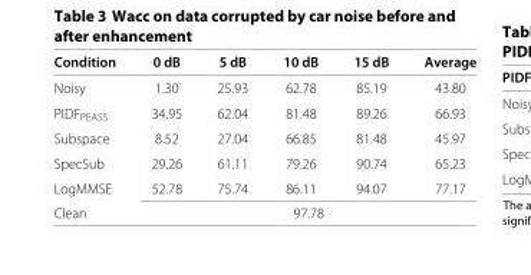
<table><thead><tr><td>Condition</td><td>0 dB</td><td>5 dB</td><td>10 dB</td><td>15 dB</td><td>Average</td></tr></thead><tbody><tr><td>Noisy</td><td>1.30</td><td>25.93</td><td>62.78</td><td>85.19</td><td>43.80</td></tr><tr><td>PIDF<sub>PEASS</sub></td><td>34.95</td><td>62.04</td><td>81.48</td><td>89.26</td><td>66.93</td></tr><tr><td>Subspace</td><td>8.52</td><td>27.04</td><td>66.85</td><td>81.48</td><td>45.97</td></tr><tr><td>SpecSub</td><td>29.26</td><td>61.11</td><td>79.26</td><td>90.74</td><td>65.23</td></tr><tr><td>LogMMSE</td><td>52.78</td><td>75.74</td><td>86.11</td><td>94.07</td><td>77.17</td></tr><tr><td>Clean</td><td colspan="5">97.78</td></tr></tbody></table>